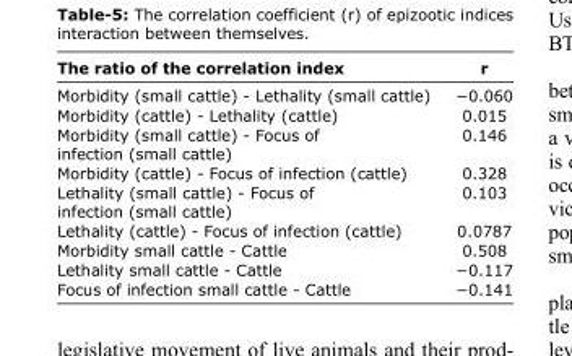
<table><thead><tr><td>The ratio of the correlation index</td><td>r</td></tr></thead><tbody><tr><td>Morbidity (small cattle) - Lethality (small cattle)</td><td>−0.060</td></tr><tr><td>Morbidity (cattle) - Lethality (cattle)</td><td>0.015</td></tr><tr><td>Morbidity (small cattle) - Focus of infection (small cattle)</td><td>0.146</td></tr><tr><td>Morbidity (cattle) - Focus of infection (cattle)</td><td>0.328</td></tr><tr><td>Lethality (small cattle) - Focus of infection (small cattle)</td><td>0.103</td></tr><tr><td>Lethality (cattle) - Focus of infection (cattle)</td><td>0.0787</td></tr><tr><td>Morbidity small cattle - Cattle</td><td>0.508</td></tr><tr><td>Lethality small cattle - Cattle</td><td>−0.117</td></tr><tr><td>Focus of infection small cattle - Cattle</td><td>−0.141</td></tr></tbody></table>